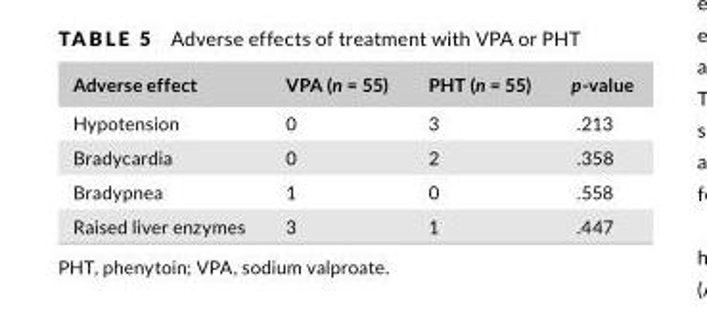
<table><thead><tr><td>Adverse effect</td><td>VPA (n = 55)</td><td>PHT (n = 55)</td><td>p- value</td></tr></thead><tbody><tr><td>Hypotension</td><td>0</td><td>3</td><td>.213</td></tr><tr><td>Bradycardia</td><td>0</td><td>2</td><td>.358</td></tr><tr><td>Bradypnea</td><td>1</td><td>0</td><td>.558</td></tr><tr><td>Raised liver enzymes</td><td>3</td><td>1</td><td>.447</td></tr></tbody></table>